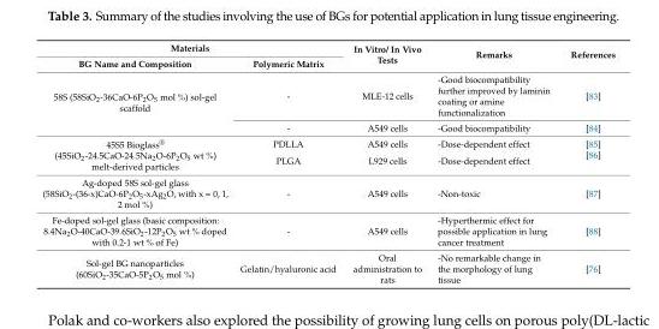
<table><thead><tr><td colspan="2">Materials</td><td rowspan="2">In Vitro/ In Vivo Tests</td><td rowspan="2">Remarks</td><td rowspan="2">References</td></tr><tr><td>BG Name and Composition</td><td>Polymeric Matrix</td></tr></thead><tbody><tr><td rowspan="2">58S (58SiO<sub>2</sub>-36CaO-6P<sub>2</sub>O<sub>5</sub> mol %) sol-gel scaffold</td><td>-</td><td>MLE-12 cells</td><td>-Good biocompatibility further improved by laminin coating or amine functionalization</td><td>[83]</td></tr><tr><td>-</td><td>A549 cells</td><td>-Good biocompatibility</td><td>[84]</td></tr><tr><td rowspan="2">45S5 Bioglass<sup>®</sup> (45SiO<sub>2</sub>-24.5CaO-24.5Na<sub>2</sub>O-6P<sub>2</sub>O<sub>5</sub> wt %) melt-derived particles</td><td>PDLLA</td><td>A549 cells</td><td>-Dose-dependent effect</td><td>[85]</td></tr><tr><td>PLGA</td><td>L929 cells</td><td>-Dose-dependent effect</td><td>[86]</td></tr><tr><td>Ag-doped 58S sol-gel glass (58SiO<sub>2</sub>-(36-x)CaO-6P<sub>2</sub>O<sub>5</sub>-xAg<sub>2</sub>O, with x = 0, 1, 2 mol %)</td><td>-</td><td>A549 cells</td><td>-Non-toxic</td><td>[87]</td></tr><tr><td>Fe-doped sol-gel glass (basic composition: 8.4Na<sub>2</sub>O-40CaO-39.6SiO<sub>2</sub>-12P<sub>2</sub>O<sub>5</sub> wt % doped with 0.2-1 wt % of Fe)</td><td>-</td><td>A549 cells</td><td>-Hyperthermic effect for possible application in lung cancer treatment</td><td>[88]</td></tr><tr><td>Sol-gel BG nanoparticles (60SiO<sub>2</sub>-35CaO-5P<sub>2</sub>O<sub>5</sub> mol %)</td><td>Gelatin/hyaluronic acid</td><td>Oral administration to rats</td><td>-No remarkable change in the morphology of lung tissue</td><td>[76]</td></tr></tbody></table>